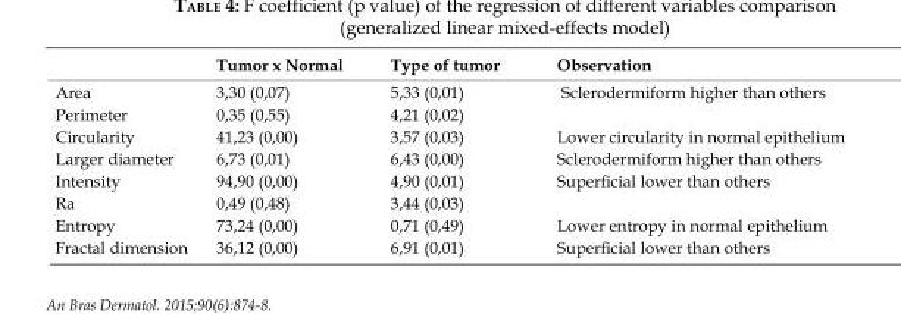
<table><thead><tr><td></td><td>Tumor x Normal</td><td>Type of tumor</td><td>Observation</td></tr></thead><tbody><tr><td>Area</td><td>3,30 (0,07)</td><td>5,33 (0,01)</td><td>Sclerodermiform higher than others</td></tr><tr><td>Perimeter</td><td>0,35 (0,55)</td><td>4,21 (0,02)</td><td></td></tr><tr><td>Circularity</td><td>41,23 (0,00)</td><td>3,57 (0,03)</td><td>Lower circularity in normal epithelium</td></tr><tr><td>Larger diameter</td><td>6,73 (0,01)</td><td>6,43 (0,00)</td><td>Sclerodermiform higher than others</td></tr><tr><td>Intensity</td><td>94,90 (0,00)</td><td>4,90 (0,01)</td><td>Superficial lower than others</td></tr><tr><td>Ra</td><td>0,49 (0,48)</td><td>3,44 (0,03)</td><td></td></tr><tr><td>Entropy</td><td>73,24 (0,00)</td><td>0,71 (0,49)</td><td>Lower entropy in normal epithelium</td></tr><tr><td>Fractal dimension</td><td>36,12 (0,00)</td><td>6,91 (0,01)</td><td>Superficial lower than others</td></tr></tbody></table>